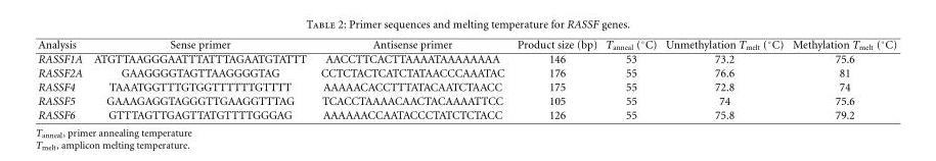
<table><thead><tr><td>Analysis</td><td>Sense primer</td><td>Antisense primer</td><td>Product size (bp)</td><td>Tanneal (◦C)</td><td>Unmethylation Tmelt (◦C)</td><td>Methylation Tmelt (◦C)</td></tr></thead><tbody><tr><td>RASSF1A</td><td>ATGTTAAGGGAATTTATTTAGAATGTATTT</td><td>AACCTTCACTTAAAATAAAAAAAA</td><td>146</td><td>53</td><td>73.2</td><td>75.6</td></tr><tr><td>RASSF2A</td><td>GAAGGGGTAGTTAAGGGGTAG</td><td>CCTCTACTCATCTATAACCCAAATAC</td><td>176</td><td>55</td><td>76.6</td><td>81</td></tr><tr><td>RASSF4</td><td>TAAATGGTTTGTGGTTTTTTGTTTT</td><td>AAAAACACCTTTATACAATCTAACC</td><td>175</td><td>55</td><td>72.8</td><td>74</td></tr><tr><td>RASSF5</td><td>GAAAGAGGTAGGGTTGAAGGTTTAG</td><td>TCACCTAAAACAACTACAAAATTCC</td><td>105</td><td>55</td><td>74</td><td>75.6</td></tr><tr><td>RASSF6</td><td>GTTTAGTTGAGTTATGTTTTGGGAG</td><td>AAAAAACCAATACCCTATCTCTACC</td><td>126</td><td>55</td><td>75.8</td><td>79.2</td></tr></tbody></table>